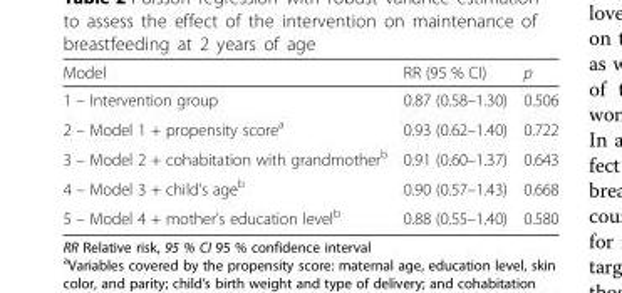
<table><thead><tr><td>Model</td><td>RR (95 % CI)</td><td>p</td></tr></thead><tbody><tr><td>1 – Intervention group</td><td>0.87 (0.58–1.30)</td><td>0.506</td></tr><tr><td>2 – Model 1 + propensity score<sup>a</sup></td><td>0.93 (0.62–1.40)</td><td>0.722</td></tr><tr><td>3 – Model 2 + cohabitation with grandmother<sup>b</sup></td><td>0.91 (0.60–1.37)</td><td>0.643</td></tr><tr><td>4 – Model 3 + child’s age<sup>b</sup></td><td>0.90 (0.57–1.43)</td><td>0.668</td></tr><tr><td>5 – Model 4 + mother’s education level<sup>b</sup></td><td>0.88 (0.55–1.40)</td><td>0.580</td></tr></tbody></table>